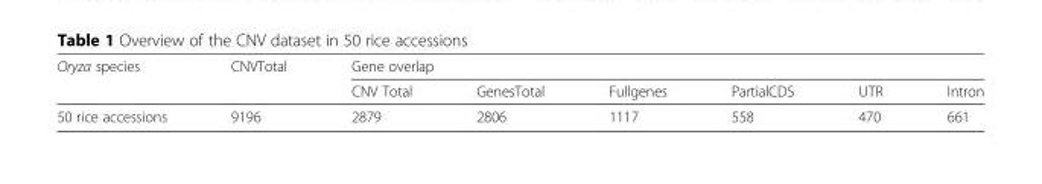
<table><thead><tr><td rowspan="2">Oryza species</td><td rowspan="2">CNVTotal</td><td colspan="6">Gene overlap</td></tr><tr><td>CNV Total</td><td>GenesTotal</td><td>Fullgenes</td><td>PartialCDS</td><td>UTR</td><td>Intron</td></tr></thead><tbody><tr><td>50 rice accessions</td><td>9196</td><td>2879</td><td>2806</td><td>1117</td><td>558</td><td>470</td><td>661</td></tr></tbody></table>